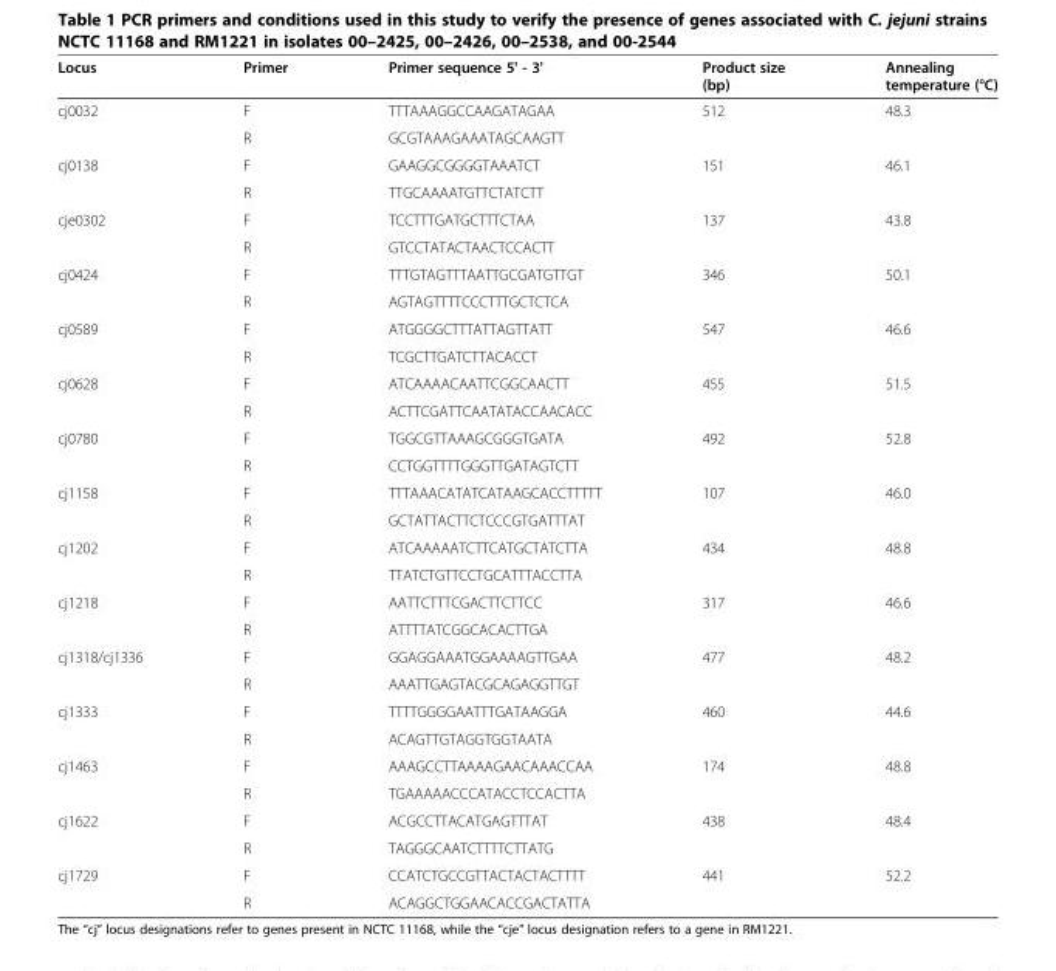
<table><thead><tr><td>Locus</td><td>Primer</td><td>Primer sequence 5&#x27; - 3&#x27;</td><td>Product size (bp)</td><td>Annealing temperature (°C)</td></tr></thead><tbody><tr><td rowspan="2">cj0032</td><td>F</td><td>TTTAAAGGCCAAGATAGAA</td><td>512</td><td>48.3</td></tr><tr><td>R</td><td>GCGTAAAGAAATAGCAAGTT</td><td></td><td></td></tr><tr><td rowspan="2">cj0138</td><td>F</td><td>GAAGGCGGGGTAAATCT</td><td>151</td><td>46.1</td></tr><tr><td>R</td><td>TTGCAAAATGTTCTATCTT</td><td></td><td></td></tr><tr><td rowspan="2">cje0302</td><td>F</td><td>TCCTTTGATGCTTTCTAA</td><td>137</td><td>43.8</td></tr><tr><td>R</td><td>GTCCTATACTAACTCCACTT</td><td></td><td></td></tr><tr><td rowspan="2">cj0424</td><td>F</td><td>TTTGTAGTTTAATTGCGATGTTGT</td><td>346</td><td>50.1</td></tr><tr><td>R</td><td>AGTAGTTTTCCCTTTGCTCTCA</td><td></td><td></td></tr><tr><td rowspan="2">cj0589</td><td>F</td><td>ATGGGGCTTTATTAGTTATT</td><td>547</td><td>46.6</td></tr><tr><td>R</td><td>TCGCTTGATCTTACACCT</td><td></td><td></td></tr><tr><td rowspan="2">cj0628</td><td>F</td><td>ATCAAAACAATTCGGCAACTT</td><td>455</td><td>51.5</td></tr><tr><td>R</td><td>ACTTCGATTCAATATACCAACACC</td><td></td><td></td></tr><tr><td rowspan="2">cj0780</td><td>F</td><td>TGGCGTTAAAGCGGGTGATA</td><td>492</td><td>52.8</td></tr><tr><td>R</td><td>CCTGGTTTTGGGTTGATAGTCTT</td><td></td><td></td></tr><tr><td rowspan="2">cj1158</td><td>F</td><td>TTTAAACATATCATAAGCACCTTTTT</td><td>107</td><td>46.0</td></tr><tr><td>R</td><td>GCTATTACTTCTCCCGTGATTTAT</td><td></td><td></td></tr><tr><td rowspan="2">cj1202</td><td>F</td><td>ATCAAAAATCTTCATGCTATCTTA</td><td>434</td><td>48.8</td></tr><tr><td>R</td><td>TTATCTGTTCCTGCATTTACCTTA</td><td></td><td></td></tr><tr><td rowspan="2">cj1218</td><td>F</td><td>AATTCTTTCGACTTCTTCC</td><td>317</td><td>46.6</td></tr><tr><td>R</td><td>ATTTTATCGGCACACTTGA</td><td></td><td></td></tr><tr><td rowspan="2">cj1318/cj1336</td><td>F</td><td>GGAGGAAATGGAAAAGTTGAA</td><td>477</td><td>48.2</td></tr><tr><td>R</td><td>AAATTGAGTACGCAGAGGTTGT</td><td></td><td></td></tr><tr><td rowspan="2">cj1333</td><td>F</td><td>TTTTGGGGAATTTGATAAGGA</td><td>460</td><td>44.6</td></tr><tr><td>R</td><td>ACAGTTGTAGGTGGTAATA</td><td></td><td></td></tr><tr><td rowspan="2">cj1463</td><td>F</td><td>AAAGCCTTAAAAGAACAAACCAA</td><td>174</td><td>48.8</td></tr><tr><td>R</td><td>TGAAAAACCCATACCTCCACTTA</td><td></td><td></td></tr><tr><td rowspan="2">cj1622</td><td>F</td><td>ACGCCTTACATGAGTTTAT</td><td>438</td><td>48.4</td></tr><tr><td>R</td><td>TAGGGCAATCTTTTCTTATG</td><td></td><td></td></tr><tr><td rowspan="2">cj1729</td><td>F</td><td>CCATCTGCCGTTACTACTACTTTT</td><td>441</td><td>52.2</td></tr><tr><td>R</td><td>ACAGGCTGGAACACCGACTATTA</td><td></td><td></td></tr></tbody></table>